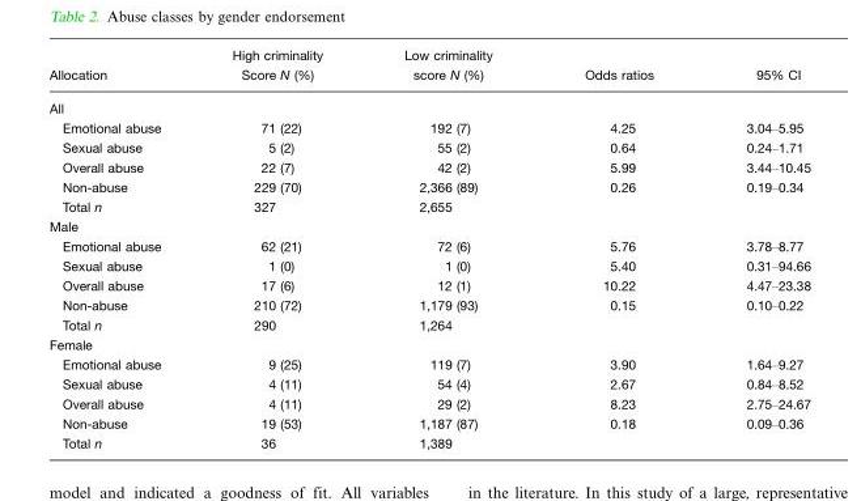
<table><thead><tr><td>Allocation</td><td>High criminality Score N (%)</td><td>Low criminality score N (%)</td><td>Odds ratios</td><td>95% CI</td></tr></thead><tbody><tr><td colspan="5">All</td></tr><tr><td>Emotional abuse</td><td>71 (22)</td><td>192 (7)</td><td>4.25</td><td>3.04–5.95</td></tr><tr><td>Sexual abuse</td><td>5 (2)</td><td>55 (2)</td><td>0.64</td><td>0.24–1.71</td></tr><tr><td>Overall abuse</td><td>22 (7)</td><td>42 (2)</td><td>5.99</td><td>3.44–10.45</td></tr><tr><td>Non-abuse</td><td>229 (70)</td><td>2,366 (89)</td><td>0.26</td><td>0.19–0.34</td></tr><tr><td>Total n</td><td>327</td><td>2,655</td><td></td><td></td></tr><tr><td colspan="5">Male</td></tr><tr><td>Emotional abuse</td><td>62 (21)</td><td>72 (6)</td><td>5.76</td><td>3.78–8.77</td></tr><tr><td>Sexual abuse</td><td>1 (0)</td><td>1 (0)</td><td>5.40</td><td>0.31–94.66</td></tr><tr><td>Overall abuse</td><td>17 (6)</td><td>12 (1)</td><td>10.22</td><td>4.47–23.38</td></tr><tr><td>Non-abuse</td><td>210 (72)</td><td>1,179 (93)</td><td>0.15</td><td>0.10–0.22</td></tr><tr><td>Total n</td><td>290</td><td>1,264</td><td></td><td></td></tr><tr><td colspan="5">Female</td></tr><tr><td>Emotional abuse</td><td>9 (25)</td><td>119 (7)</td><td>3.90</td><td>1.64–9.27</td></tr><tr><td>Sexual abuse</td><td>4 (11)</td><td>54 (4)</td><td>2.67</td><td>0.84–8.52</td></tr><tr><td>Overall abuse</td><td>4 (11)</td><td>29 (2)</td><td>8.23</td><td>2.75–24.67</td></tr><tr><td>Non-abuse</td><td>19 (53)</td><td>1,187 (87)</td><td>0.18</td><td>0.09–0.36</td></tr><tr><td>Total n</td><td>36</td><td>1,389</td><td></td><td></td></tr></tbody></table>